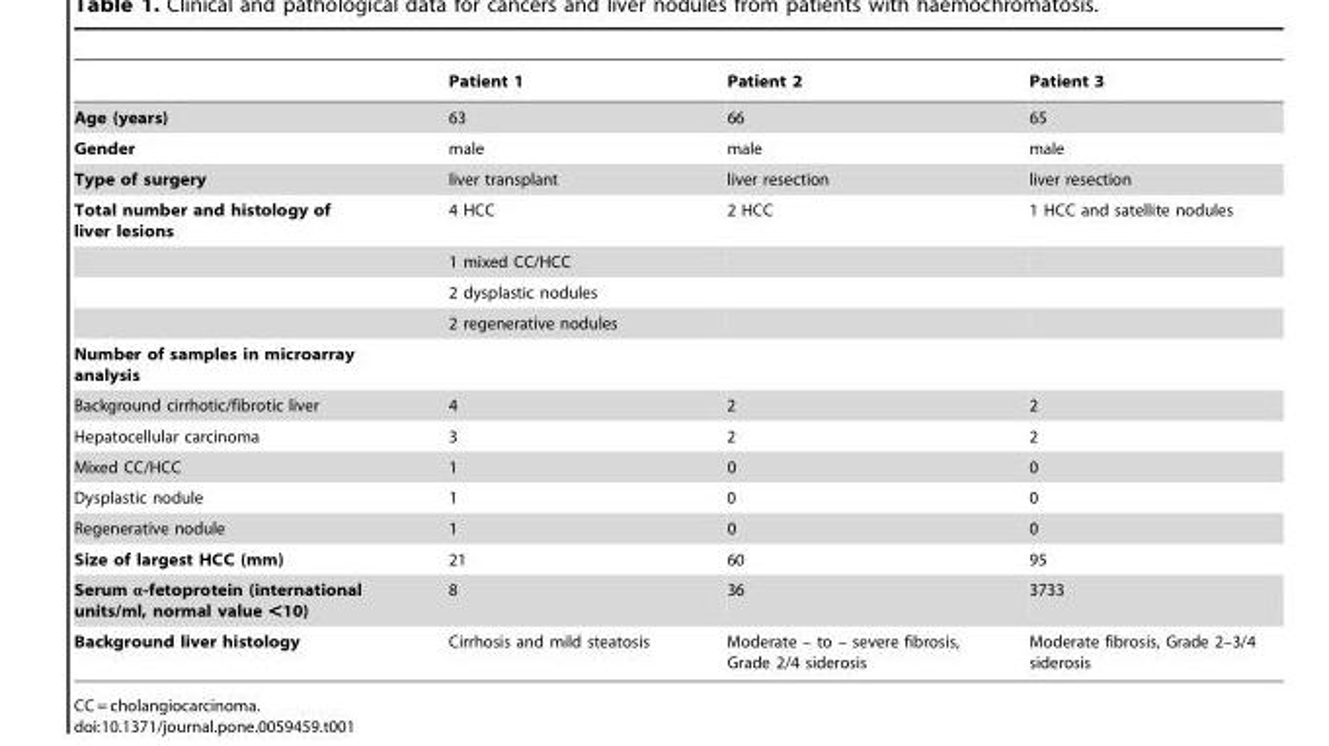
<table><thead><tr><td></td><td>Patient 1</td><td>Patient 2</td><td>Patient 3</td></tr></thead><tbody><tr><td>Age (years)</td><td>63</td><td>66</td><td>65</td></tr><tr><td>Gender</td><td>male</td><td>male</td><td>male</td></tr><tr><td>Type of surgery</td><td>liver transplant</td><td>liver resection</td><td>liver resection</td></tr><tr><td rowspan="4">Total number and histology of liver lesions</td><td>4 HCC</td><td>2 HCC</td><td>1 HCC and satellite nodules</td></tr><tr><td>1 mixed CC/HCC</td><td></td><td></td></tr><tr><td>2 dysplastic nodules</td><td></td><td></td></tr><tr><td>2 regenerative nodules</td><td></td><td></td></tr><tr><td colspan="4">Number of samples in microarray analysis</td></tr><tr><td>Background cirrhotic/fibrotic liver</td><td>4</td><td>2</td><td>2</td></tr><tr><td>Hepatocellular carcinoma</td><td>3</td><td>2</td><td>2</td></tr><tr><td>Mixed CC/HCC</td><td>1</td><td>0</td><td>0</td></tr><tr><td>Dysplastic nodule</td><td>1</td><td>0</td><td>0</td></tr><tr><td>Regenerative nodule</td><td>1</td><td>0</td><td>0</td></tr><tr><td>Size of largest HCC (mm)</td><td>21</td><td>60</td><td>95</td></tr><tr><td>Serum α-fetoprotein (international units/ml, normal value &lt;10)</td><td>8</td><td>36</td><td>3733</td></tr><tr><td>Background liver histology</td><td>Cirrhosis and mild steatosis</td><td>Moderate – to – severe fibrosis, Grade 2/4 siderosis</td><td>Moderate fibrosis, Grade 2–3/4 siderosis</td></tr></tbody></table>